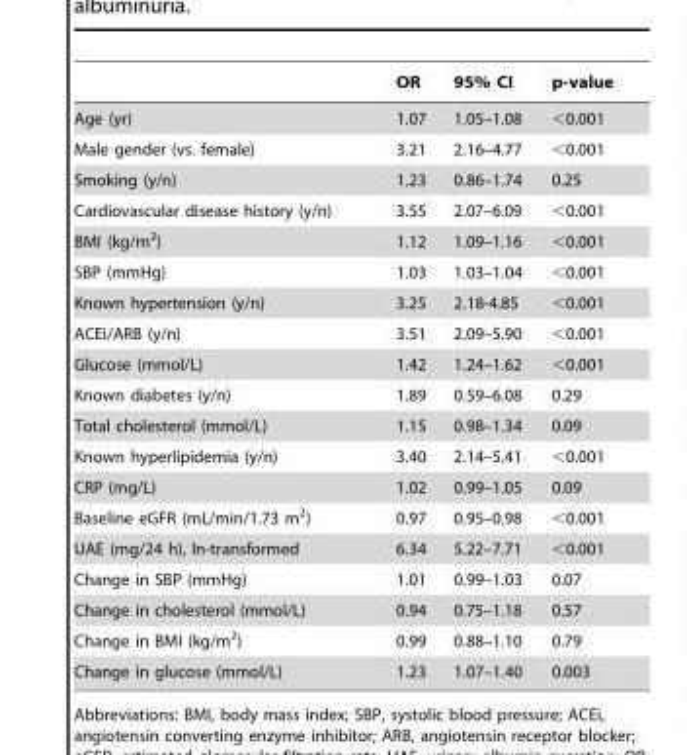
<table><thead><tr><td></td><td>OR</td><td>95% CI</td><td>p-value</td></tr></thead><tbody><tr><td>Age (yr)</td><td>1.07</td><td>1.05–1.08</td><td>&lt;0.001</td></tr><tr><td>Male gender (vs. female)</td><td>3.21</td><td>2.16–4.77</td><td>&lt;0.001</td></tr><tr><td>Smoking (y/n)</td><td>1.23</td><td>0.86–1.74</td><td>0.25</td></tr><tr><td>Cardiovascular disease history (y/n)</td><td>3.55</td><td>2.07–6.09</td><td>&lt;0.001</td></tr><tr><td>BMI (kg/m<sup>2</sup>)</td><td>1.12</td><td>1.09–1.16</td><td>&lt;0.001</td></tr><tr><td>SBP (mmHg)</td><td>1.03</td><td>1.03–1.04</td><td>&lt;0.001</td></tr><tr><td>Known hypertension (y/n)</td><td>3.25</td><td>2.18-4.85</td><td>&lt;0.001</td></tr><tr><td>ACEi/ARB (y/n)</td><td>3.51</td><td>2.09–5.90</td><td>&lt;0.001</td></tr><tr><td>Glucose (mmol/L)</td><td>1.42</td><td>1.24–1.62</td><td>&lt;0.001</td></tr><tr><td>Known diabetes (y/n)</td><td>1.89</td><td>0.59–6.08</td><td>0.29</td></tr><tr><td>Total cholesterol (mmol/L)</td><td>1.15</td><td>0.98–1.34</td><td>0.09</td></tr><tr><td>Known hyperlipidemia (y/n)</td><td>3.40</td><td>2.14–5.41</td><td>&lt;0.001</td></tr><tr><td>CRP (mg/L)</td><td>1.02</td><td>0.99–1.05</td><td>0.09</td></tr><tr><td>Baseline eGFR (mL/min/1.73 m<sup>2</sup>)</td><td>0.97</td><td>0.95–0.98</td><td>&lt;0.001</td></tr><tr><td>UAE (mg/24 h), ln-transformed</td><td>6.34</td><td>5.22–7.71</td><td>&lt;0.001</td></tr><tr><td>Change in SBP (mmHg)</td><td>1.01</td><td>0.99–1.03</td><td>0.07</td></tr><tr><td>Change in cholesterol (mmol/L)</td><td>0.94</td><td>0.75–1.18</td><td>0.57</td></tr><tr><td>Change in BMI (kg/m<sup>2</sup>)</td><td>0.99</td><td>0.88–1.10</td><td>0.79</td></tr><tr><td>Change in glucose (mmol/L)</td><td>1.23</td><td>1.07–1.40</td><td>0.003</td></tr></tbody></table>